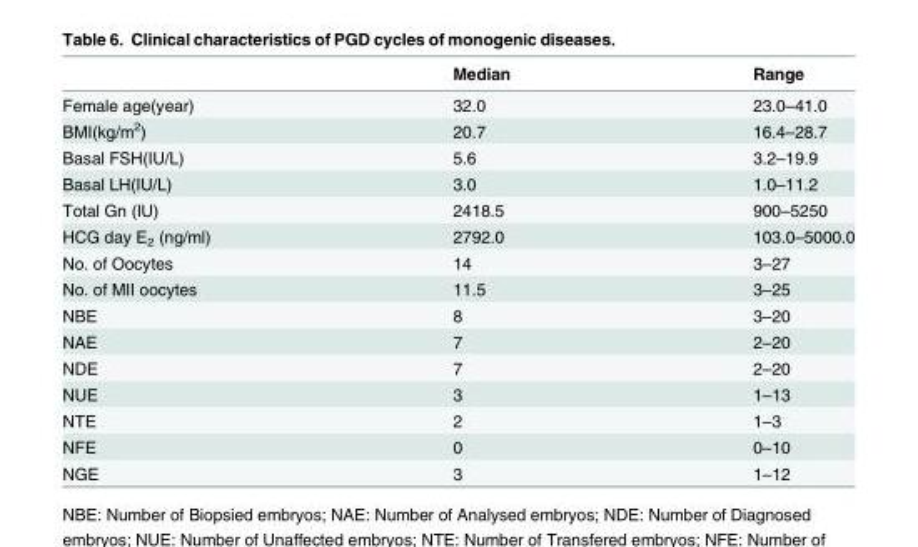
<table><thead><tr><td></td><td>Median</td><td>Range</td></tr></thead><tbody><tr><td>Female age(year)</td><td>32.0</td><td>23.0–41.0</td></tr><tr><td>BMI(kg/m<sup>2</sup>)</td><td>20.7</td><td>16.4–28.7</td></tr><tr><td>Basal FSH(IU/L)</td><td>5.6</td><td>3.2–19.9</td></tr><tr><td>Basal LH(IU/L)</td><td>3.0</td><td>1.0–11.2</td></tr><tr><td>Total Gn (IU)</td><td>2418.5</td><td>900–5250</td></tr><tr><td>HCG day E<sub>2</sub> (ng/ml)</td><td>2792.0</td><td>103.0–5000.0</td></tr><tr><td>No. of Oocytes</td><td>14</td><td>3–27</td></tr><tr><td>No. of MII oocytes</td><td>11.5</td><td>3–25</td></tr><tr><td>NBE</td><td>8</td><td>3–20</td></tr><tr><td>NAE</td><td>7</td><td>2–20</td></tr><tr><td>NDE</td><td>7</td><td>2–20</td></tr><tr><td>NUE</td><td>3</td><td>1–13</td></tr><tr><td>NTE</td><td>2</td><td>1–3</td></tr><tr><td>NFE</td><td>0</td><td>0–10</td></tr><tr><td>NGE</td><td>3</td><td>1–12</td></tr></tbody></table>